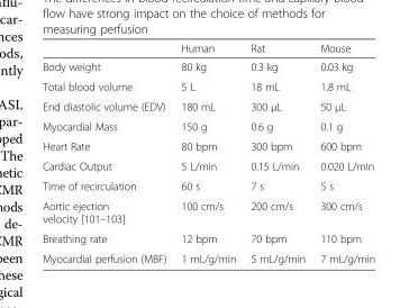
<table><thead><tr><td></td><td>Human</td><td>Rat</td><td>Mouse</td></tr></thead><tbody><tr><td>Body weight</td><td>80 kg</td><td>0.3 kg</td><td>0.03 kg</td></tr><tr><td>Total blood volume</td><td>5 L</td><td>18 mL</td><td>1.8 mL</td></tr><tr><td>End diastolic volume (EDV)</td><td>180 mL</td><td>300 μL</td><td>50 μL</td></tr><tr><td>Myocardial Mass</td><td>150 g</td><td>0.6 g</td><td>0.1 g</td></tr><tr><td>Heart Rate</td><td>80 bpm</td><td>300 bpm</td><td>600 bpm</td></tr><tr><td>Cardiac Output</td><td>5 L/min</td><td>0.15 L/min</td><td>0.020 L/min</td></tr><tr><td>Time of recirculation</td><td>60 s</td><td>7 s</td><td>5 s</td></tr><tr><td>Aortic ejection velocity [101–103]</td><td>100 cm/s</td><td>200 cm/s</td><td>300 cm/s</td></tr><tr><td>Breathing rate</td><td>12 bpm</td><td>70 bpm</td><td>110 bpm</td></tr><tr><td>Myocardial perfusion (MBF)</td><td>1 mL/g/min</td><td>5 mL/g/min</td><td>7 mL/g/min</td></tr></tbody></table>